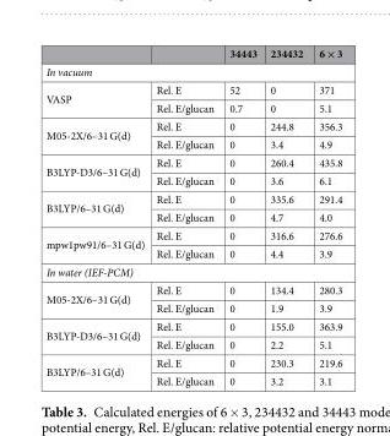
<table><thead><tr><td></td><td></td><td>34443</td><td>234432</td><td>6 × 3</td></tr></thead><tbody><tr><td colspan="5">In vacuum</td></tr><tr><td rowspan="2">VASP</td><td>Rel. E</td><td>52</td><td>0</td><td>371</td></tr><tr><td>Rel. E/glucan</td><td>0.7</td><td>0</td><td>5.1</td></tr><tr><td rowspan="2">M05-2X/6–31 G(d)</td><td>Rel. E</td><td>0</td><td>244.8</td><td>356.3</td></tr><tr><td>Rel. E/glucan</td><td>0</td><td>3.4</td><td>4.9</td></tr><tr><td rowspan="2">B3LYP-D3/6–31 G(d)</td><td>Rel. E</td><td>0</td><td>260.4</td><td>435.8</td></tr><tr><td>Rel. E/glucan</td><td>0</td><td>3.6</td><td>6.1</td></tr><tr><td rowspan="2">B3LYP/6–31 G(d)</td><td>Rel. E</td><td>0</td><td>335.6</td><td>291.4</td></tr><tr><td>Rel. E/glucan</td><td>0</td><td>4.7</td><td>4.0</td></tr><tr><td rowspan="2">mpw1pw91/6–31 G(d)</td><td>Rel. E</td><td>0</td><td>316.6</td><td>276.6</td></tr><tr><td>Rel. E/glucan</td><td>0</td><td>4.4</td><td>3.9</td></tr><tr><td colspan="5">In water (IEF-PCM)</td></tr><tr><td rowspan="2">M05-2X/6–31 G(d)</td><td>Rel. E</td><td>0</td><td>134.4</td><td>280.3</td></tr><tr><td>Rel. E/glucan</td><td>0</td><td>1.9</td><td>3.9</td></tr><tr><td rowspan="2">B3LYP-D3/6–31 G(d)</td><td>Rel. E</td><td>0</td><td>155.0</td><td>363.9</td></tr><tr><td>Rel. E/glucan</td><td>0</td><td>2.2</td><td>5.1</td></tr><tr><td rowspan="2">B3LYP/6–31 G(d)</td><td>Rel. E</td><td>0</td><td>230.3</td><td>219.6</td></tr><tr><td>Rel. E/glucan</td><td>0</td><td>3.2</td><td>3.1</td></tr></tbody></table>